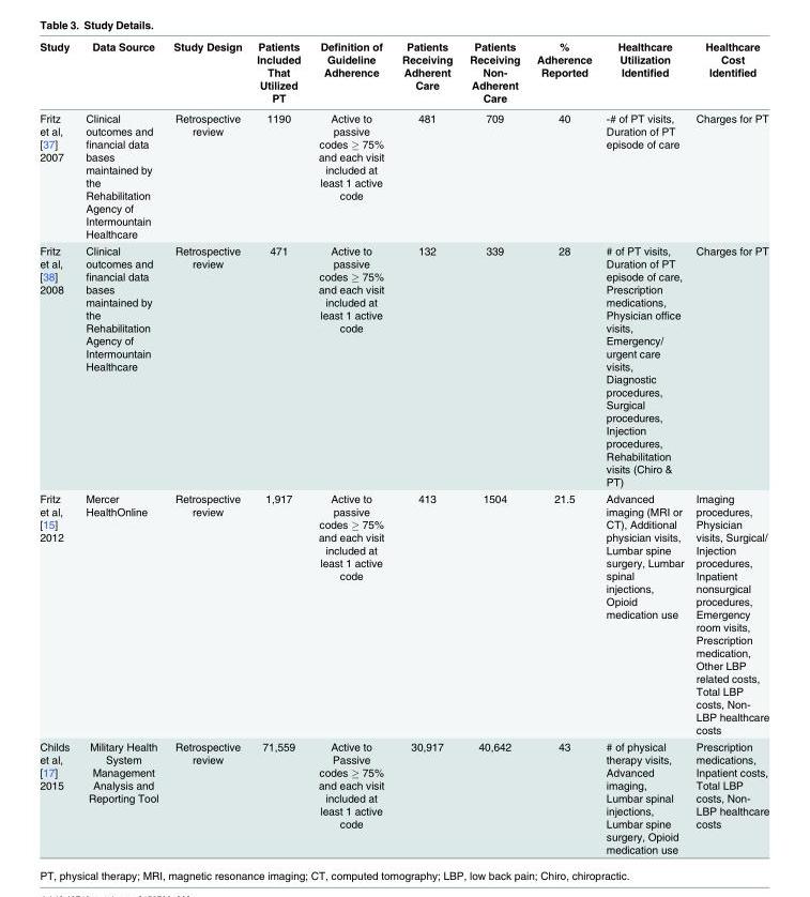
<table><thead><tr><td>Study</td><td>Data Source</td><td>Study Design</td><td>Patients Included That Utilized PT</td><td>Definition of Guideline Adherence</td><td>Patients Receiving Adherent Care</td><td>Patients Receiving Non- Adherent Care</td><td>% Adherence Reported</td><td>Healthcare Utilization Identified</td><td>Healthcare Cost Identified</td></tr></thead><tbody><tr><td>Fritz et al, [37] 2007</td><td>Clinical outcomes and financial data bases maintained by the Rehabilitation Agency of Intermountain Healthcare</td><td>Retrospective review</td><td>1190</td><td>Active to passive codes ≥ 75% and each visit included at least 1 active code</td><td>481</td><td>709</td><td>40</td><td>-# of PT visits, Duration of PT episode of care</td><td>Charges for PT</td></tr><tr><td>Fritz et al, [38] 2008</td><td>Clinical outcomes and financial data bases maintained by the Rehabilitation Agency of Intermountain Healthcare</td><td>Retrospective review</td><td>471</td><td>Active to passive codes ≥ 75% and each visit included at least 1 active code</td><td>132</td><td>339</td><td>28</td><td># of PT visits, Duration of PT episode of care, Prescription medications, Physician office visits, Emergency/ urgent care visits, Diagnostic procedures, Surgical procedures, Injection procedures, Rehabilitation visits (Chiro &amp; PT)</td><td>Charges for PT</td></tr><tr><td>Fritz et al, [15] 2012</td><td>Mercer HealthOnline</td><td>Retrospective review</td><td>1,917</td><td>Active to passive codes ≥ 75% and each visit included at least 1 active code</td><td>413</td><td>1504</td><td>21.5</td><td>Advanced imaging (MRI or CT), Additional physician visits, Lumbar spine surgery, Lumbar spinal injections, Opioid medication use</td><td>Imaging procedures, Physician visits, Surgical/ Injection procedures, Inpatient nonsurgical procedures, Emergency room visits, Prescription medication, Other LBP related costs, Total LBP costs, Non- LBP healthcare costs</td></tr><tr><td>Childs et al, [17] 2015</td><td>Military Health System Management Analysis and Reporting Tool</td><td>Retrospective review</td><td>71,559</td><td>Active to Passive codes ≥ 75% and each visit included at least 1 active code</td><td>30,917</td><td>40,642</td><td>43</td><td># of physical therapy visits, Advanced imaging, Lumbar spinal injections, Lumbar spine surgery, Opioid medication use</td><td>Prescription medications, Inpatient costs, Total LBP costs, Non- LBP healthcare costs</td></tr></tbody></table>